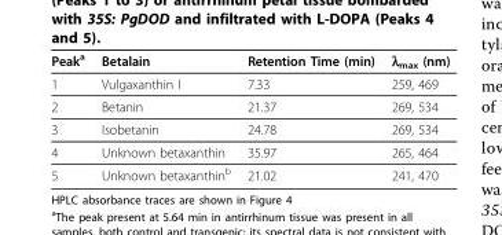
<table><thead><tr><td>Peak<sup>a</sup></td><td>Betalain</td><td>Retention Time (min)</td><td>λ<sub>max</sub> (nm)</td></tr></thead><tbody><tr><td>1</td><td>Vulgaxanthin I</td><td>7.33</td><td>259, 469</td></tr><tr><td>2</td><td>Betanin</td><td>21.37</td><td>269, 534</td></tr><tr><td>3</td><td>Isobetanin</td><td>24.78</td><td>269, 534</td></tr><tr><td>4</td><td>Unknown betaxanthin</td><td>35.97</td><td>265, 464</td></tr><tr><td>5</td><td>Unknown betaxanthin<sup>b</sup></td><td>21.02</td><td>241, 470</td></tr></tbody></table>